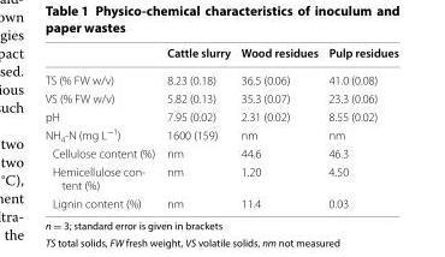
<table><thead><tr><td></td><td>Cattle slurry</td><td>Wood residues</td><td>Pulp residues</td></tr></thead><tbody><tr><td>TS (% FW w/v)</td><td>8.23 (0.18)</td><td>36.5 (0.06)</td><td>41.0 (0.08)</td></tr><tr><td>VS (% FW w/v)</td><td>5.82 (0.13)</td><td>35.3 (0.07)</td><td>23.3 (0.06)</td></tr><tr><td>pH</td><td>7.95 (0.02)</td><td>2.31 (0.02)</td><td>8.55 (0.02)</td></tr><tr><td>NH<sub>4</sub>‑N (mg L<sup>−1</sup>)</td><td>1600 (159)</td><td>nm</td><td>nm</td></tr><tr><td>Cellulose content (%)</td><td>nm</td><td>44.6</td><td>46.3</td></tr><tr><td>Hemicellulose con‑ tent (%)</td><td>nm</td><td>1.20</td><td>4.50</td></tr><tr><td>Lignin content (%)</td><td>nm</td><td>11.4</td><td>0.03</td></tr></tbody></table>